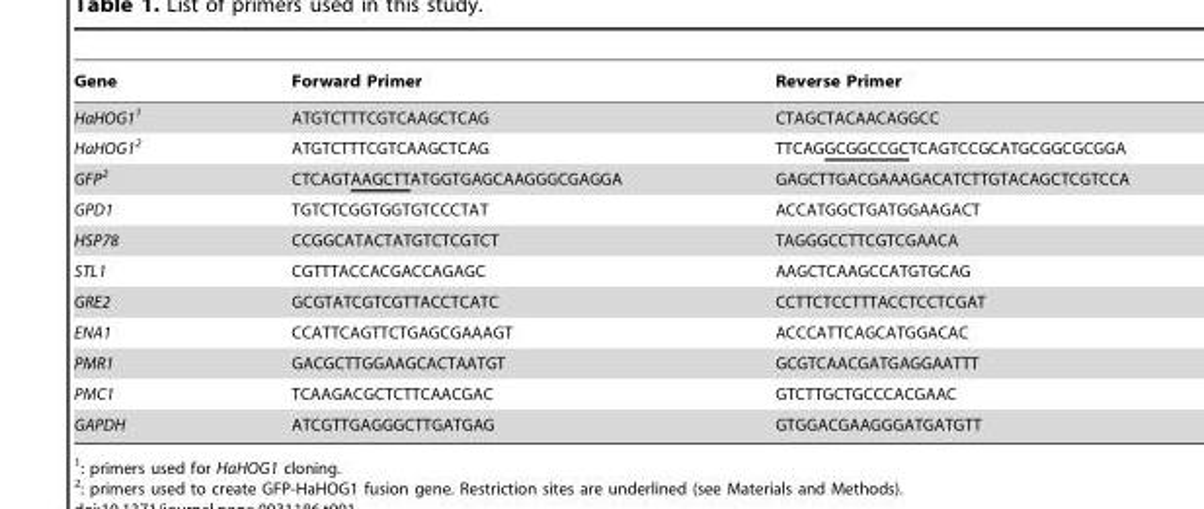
<table><thead><tr><td>Gene</td><td>Forward Primer</td><td>Reverse Primer</td></tr></thead><tbody><tr><td>HaHOG11</td><td>ATGTCTTTCGTCAAGCTCAG</td><td>CTAGCTACAACAGGCC</td></tr><tr><td>HaHOG12</td><td>ATGTCTTTCGTCAAGCTCAG</td><td>TTCAGGCGGCCGCTCAGTCCGCATGCGGCGCGGA</td></tr><tr><td>GFP2</td><td>CTCAGTAAGCTTATGGTGAGCAAGGGCGAGGA</td><td>GAGCTTGACGAAAGACATCTTGTACAGCTCGTCCA</td></tr><tr><td>GPD1</td><td>TGTCTCGGTGGTGTCCCTAT</td><td>ACCATGGCTGATGGAAGACT</td></tr><tr><td>HSP78</td><td>CCGGCATACTATGTCTCGTCT</td><td>TAGGGCCTTCGTCGAACA</td></tr><tr><td>STL1</td><td>CGTTTACCACGACCAGAGC</td><td>AAGCTCAAGCCATGTGCAG</td></tr><tr><td>GRE2</td><td>GCGTATCGTCGTTACCTCATC</td><td>CCTTCTCCTTTACCTCCTCGAT</td></tr><tr><td>ENA1</td><td>CCATTCAGTTCTGAGCGAAAGT</td><td>ACCCATTCAGCATGGACAC</td></tr><tr><td>PMR1</td><td>GACGCTTGGAAGCACTAATGT</td><td>GCGTCAACGATGAGGAATTT</td></tr><tr><td>PMC1</td><td>TCAAGACGCTCTTCAACGAC</td><td>GTCTTGCTGCCCACGAAC</td></tr><tr><td>GAPDH</td><td>ATCGTTGAGGGCTTGATGAG</td><td>GTGGACGAAGGGATGATGTT</td></tr></tbody></table>